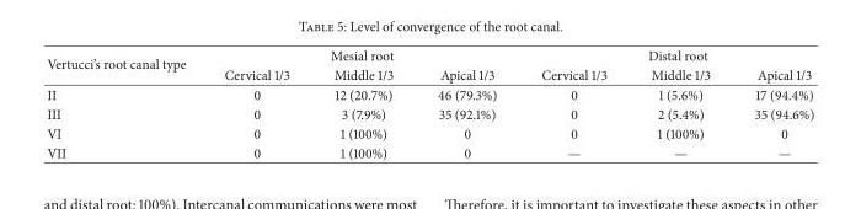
<table><thead><tr><td rowspan="2">Vertucci’s root canal type</td><td colspan="3">Mesial root</td><td colspan="3">Distal root</td></tr><tr><td>Cervical 1/3</td><td>Middle 1/3</td><td>Apical 1/3</td><td>Cervical 1/3</td><td>Middle 1/3</td><td>Apical 1/3</td></tr></thead><tbody><tr><td>II</td><td>0</td><td>12 (20.7%)</td><td>46 (79.3%)</td><td>0</td><td>1 (5.6%)</td><td>17 (94.4%)</td></tr><tr><td>III</td><td>0</td><td>3 (7.9%)</td><td>35 (92.1%)</td><td>0</td><td>2 (5.4%)</td><td>35 (94.6%)</td></tr><tr><td>VI</td><td>0</td><td>1 (100%)</td><td>0</td><td>0</td><td>1 (100%)</td><td>0</td></tr><tr><td>VII</td><td>0</td><td>1 (100%)</td><td>0</td><td>—</td><td>—</td><td>—</td></tr></tbody></table>